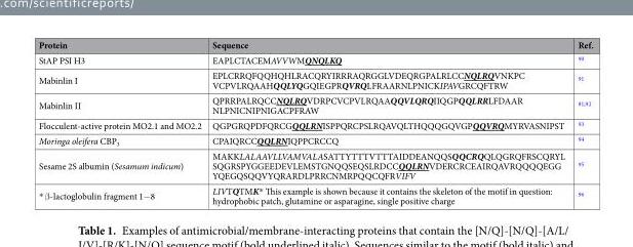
<table><thead><tr><td>Protein</td><td>Sequence</td><td>Ref.</td></tr></thead><tbody><tr><td>StAP PSI H3</td><td>EAPLCTACEMAVVWMQNQLKQ</td><td><sup>90</sup></td></tr><tr><td>Mabinlin I</td><td>EPLCRRQFQQHQHLRACQRYIRRRAQRGGLVDEQRGPALRLCCNQLRQVNKPC VCPVLRQAAHQQLYQGQIEGPRQVRQLFRAARNLPNICKIPAVGRCQFTRW</td><td><sup>91</sup></td></tr><tr><td>Mabinlin II</td><td>QPRRPALRQCCNQLRQVDRPCVCPVLRQAAQQVLQRQIIQGPQQLRRLFDAAR NLPNICNIPNIGACPFRAW</td><td><sup>81,92</sup></td></tr><tr><td>Flocculent-active protein MO2.1 and MO2.2</td><td>QGPGRQPDFQRCGQQLRNISPPQRCPSLRQAVQLTHQQQGQVGPQQVRQMYRVASNIPST</td><td><sup>93</sup></td></tr><tr><td>Moringa oleifera CBP<sub>3</sub></td><td>CPAIQRCCQQLRNIQPPCRCCQ</td><td><sup>94</sup></td></tr><tr><td>Sesame 2S albumin (Sesamum indicum)</td><td>MAKKLALAAVLLVAMVALASATTYTTTVTTTAIDDEANQQSQQCRQQLQGRQFRSCQRYL SQGRSPYGGEEDEVLEMSTGNQQSEQSLRDCCQQLRNVDERCRCEAIRQAVRQQQQEGG YQEGQSQQVYQRARDLPRRCNMRPQQCQFRVIFV</td><td><sup>95</sup></td></tr><tr><td>* β-lactoglobulin fragment 1−8</td><td>LIVTQTMK* This example is shown because it contains the skeleton of the motif in question: hydrophobic patch, glutamine or asparagine, single positive charge</td><td><sup>96</sup></td></tr></tbody></table>